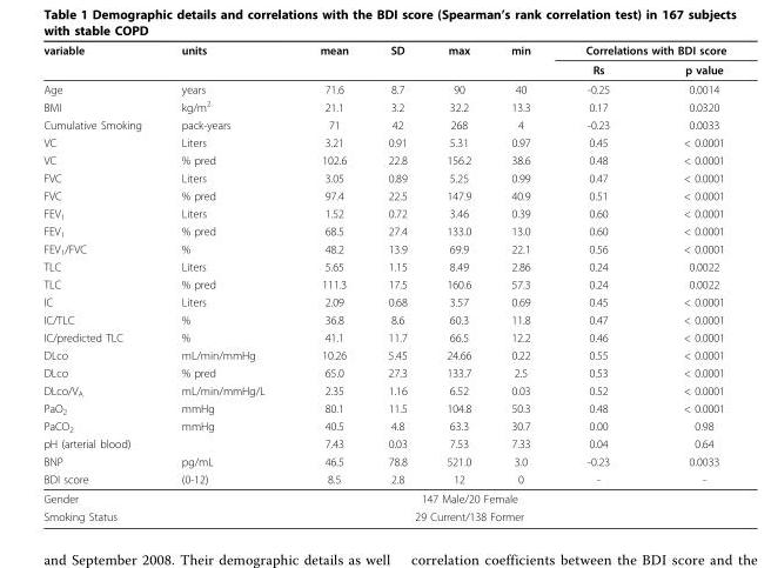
<table><thead><tr><td rowspan="2">variable</td><td rowspan="2">units</td><td rowspan="2">mean</td><td rowspan="2">SD</td><td rowspan="2">max</td><td rowspan="2">min</td><td colspan="2">Correlations with BDI score</td></tr><tr><td>Rs</td><td>p value</td></tr></thead><tbody><tr><td>Age</td><td>years</td><td>71.6</td><td>8.7</td><td>90</td><td>40</td><td>-0.25</td><td>0.0014</td></tr><tr><td>BMI</td><td>kg/m<sup>2</sup></td><td>21.1</td><td>3.2</td><td>32.2</td><td>13.3</td><td>0.17</td><td>0.0320</td></tr><tr><td>Cumulative Smoking</td><td>pack-years</td><td>71</td><td>42</td><td>268</td><td>4</td><td>-0.23</td><td>0.0033</td></tr><tr><td>VC</td><td>Liters</td><td>3.21</td><td>0.91</td><td>5.31</td><td>0.97</td><td>0.45</td><td>&lt; 0.0001</td></tr><tr><td>VC</td><td>% pred</td><td>102.6</td><td>22.8</td><td>156.2</td><td>38.6</td><td>0.48</td><td>&lt; 0.0001</td></tr><tr><td>FVC</td><td>Liters</td><td>3.05</td><td>0.89</td><td>5.25</td><td>0.99</td><td>0.47</td><td>&lt; 0.0001</td></tr><tr><td>FVC</td><td>% pred</td><td>97.4</td><td>22.5</td><td>147.9</td><td>40.9</td><td>0.51</td><td>&lt; 0.0001</td></tr><tr><td>FEV<sub>1</sub></td><td>Liters</td><td>1.52</td><td>0.72</td><td>3.46</td><td>0.39</td><td>0.60</td><td>&lt; 0.0001</td></tr><tr><td>FEV<sub>1</sub></td><td>% pred</td><td>68.5</td><td>27.4</td><td>133.0</td><td>13.0</td><td>0.60</td><td>&lt; 0.0001</td></tr><tr><td>FEV<sub>1</sub>/FVC</td><td>%</td><td>48.2</td><td>13.9</td><td>69.9</td><td>22.1</td><td>0.56</td><td>&lt; 0.0001</td></tr><tr><td>TLC</td><td>Liters</td><td>5.65</td><td>1.15</td><td>8.49</td><td>2.86</td><td>0.24</td><td>0.0022</td></tr><tr><td>TLC</td><td>% pred</td><td>111.3</td><td>17.5</td><td>160.6</td><td>57.3</td><td>0.24</td><td>0.0022</td></tr><tr><td>IC</td><td>Liters</td><td>2.09</td><td>0.68</td><td>3.57</td><td>0.69</td><td>0.45</td><td>&lt; 0.0001</td></tr><tr><td>IC/TLC</td><td>%</td><td>36.8</td><td>8.6</td><td>60.3</td><td>11.8</td><td>0.47</td><td>&lt; 0.0001</td></tr><tr><td>IC/predicted TLC</td><td>%</td><td>41.1</td><td>11.7</td><td>66.5</td><td>12.2</td><td>0.46</td><td>&lt; 0.0001</td></tr><tr><td>DLco</td><td>mL/min/mmHg</td><td>10.26</td><td>5.45</td><td>24.66</td><td>0.22</td><td>0.55</td><td>&lt; 0.0001</td></tr><tr><td>DLco</td><td>% pred</td><td>65.0</td><td>27.3</td><td>133.7</td><td>2.5</td><td>0.53</td><td>&lt; 0.0001</td></tr><tr><td>DLco/V<sub>A</sub></td><td>mL/min/mmHg/L</td><td>2.35</td><td>1.16</td><td>6.52</td><td>0.03</td><td>0.52</td><td>&lt; 0.0001</td></tr><tr><td>PaO<sub>2</sub></td><td>mmHg</td><td>80.1</td><td>11.5</td><td>104.8</td><td>50.3</td><td>0.48</td><td>&lt; 0.0001</td></tr><tr><td>PaCO<sub>2</sub></td><td>mmHg</td><td>40.5</td><td>4.8</td><td>63.3</td><td>30.7</td><td>0.00</td><td>0.98</td></tr><tr><td>pH (arterial blood)</td><td></td><td>7.43</td><td>0.03</td><td>7.53</td><td>7.33</td><td>0.04</td><td>0.64</td></tr><tr><td>BNP</td><td>pg/mL</td><td>46.5</td><td>78.8</td><td>521.0</td><td>3.0</td><td>-0.23</td><td>0.0033</td></tr><tr><td>BDI score</td><td>(0-12)</td><td>8.5</td><td>2.8</td><td>12</td><td>0</td><td>-</td><td>-</td></tr><tr><td>Gender</td><td colspan="7">147 Male/20 Female</td></tr><tr><td>Smoking Status</td><td colspan="7">29 Current/138 Former</td></tr></tbody></table>